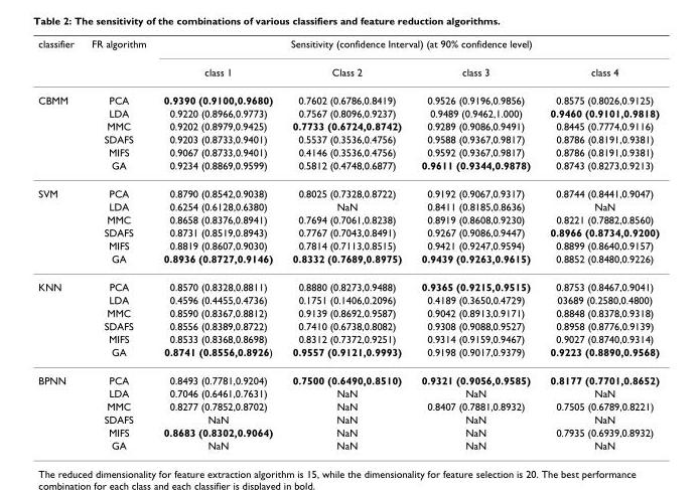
<table><thead><tr><td rowspan="2">classifier</td><td rowspan="2">FR algorithm</td><td colspan="4">Sensitivity (confidence Interval) (at 90% confidence level)</td></tr><tr><td>class 1</td><td>Class 2</td><td>class 3</td><td>class 4</td></tr></thead><tbody><tr><td rowspan="6">CBMM</td><td>PCA</td><td>0.9390 (0.9100,0.9680)</td><td>0.7602 (0.6786,0.8419)</td><td>0.9526 (0.9196,0.9856)</td><td>0.8575 (0.8026,0.9125)</td></tr><tr><td>LDA</td><td>0.9220 (0.8966,0.9773)</td><td>0.7567 (0.8096,0.9237)</td><td>0.9489 (0.9462,1.000)</td><td>0.9460 (0.9101,0.9818)</td></tr><tr><td>MMC</td><td>0.9202 (0.8979,0.9425)</td><td>0.7733 (0.6724,0.8742)</td><td>0.9289 (0.9086,0.9491)</td><td>0.8445 (0.7774,0.9116)</td></tr><tr><td>SDAFS</td><td>0.9203 (0.8733,0.9401)</td><td>0.5537 (0.3536,0.4756)</td><td>0.9588 (0.9367,0.9817)</td><td>0.8786 (0.8191,0.9381)</td></tr><tr><td>MIFS</td><td>0.9067 (0.8733,0.9401)</td><td>0.4146 (0.3536,0.4756)</td><td>0.9592 (0.9367,0.9817)</td><td>0.8786 (0.8191,0.9381)</td></tr><tr><td>GA</td><td>0.9234 (0.8869,0.9599)</td><td>0.5812 (0.4748,0.6877)</td><td>0.9611 (0.9344,0.9878)</td><td>0.8743 (0.8273,0.9213)</td></tr><tr><td rowspan="6">SVM</td><td>PCA</td><td>0.8790 (0.8542,0.9038)</td><td>0.8025 (0.7328,0.8722)</td><td>0.9192 (0.9067,0.9317)</td><td>0.8744 (0.8441,0.9047)</td></tr><tr><td>LDA</td><td>0.6254 (0.6128,0.6380)</td><td>NaN</td><td>0.8411 (0.8185,0.8636)</td><td>NaN</td></tr><tr><td>MMC</td><td>0.8658 (0.8376,0.8941)</td><td>0.7694 (0.7061,0.8238)</td><td>0.8919 (0.8608,0.9230)</td><td>0.8221 (0.7882,0.8560)</td></tr><tr><td>SDAFS</td><td>0.8731 (0.8519,0.8943)</td><td>0.7767 (0.7043,0.8491)</td><td>0.9267 (0.9086,0.9447)</td><td>0.8966 (0.8734,0.9200)</td></tr><tr><td>MIFS</td><td>0.8819 (0.8607,0.9030)</td><td>0.7814 (0.7113,0.8515)</td><td>0.9421 (0.9247,0.9594)</td><td>0.8899 (0.8640,0.9157)</td></tr><tr><td>GA</td><td>0.8936 (0.8727,0.9146)</td><td>0.8332 (0.7689,0.8975)</td><td>0.9439 (0.9263,0.9615)</td><td>0.8852 (0.8480,0.9226)</td></tr><tr><td rowspan="6">KNN</td><td>PCA</td><td>0.8570 (0.8328,0.8811)</td><td>0.8880 (0.8273,0.9488)</td><td>0.9365 (0.9215,0.9515)</td><td>0.8753 (0.8467,0.9041)</td></tr><tr><td>LDA</td><td>0.4596 (0.4455,0.4736)</td><td>0.1751 (0.1406,0.2096)</td><td>0.4189 (0.3650,0.4729)</td><td>03689 (0.2580,0.4800)</td></tr><tr><td>MMC</td><td>0.8590 (0.8367,0.8812)</td><td>0.9139 (0.8692,0.9587)</td><td>0.9042 (0.8913,0.9171)</td><td>0.8848 (0.8378,0.9318)</td></tr><tr><td>SDAFS</td><td>0.8556 (0.8389,0.8722)</td><td>0.7410 (0.6738,0.8082)</td><td>0.9308 (0.9088,0.9527)</td><td>0.8958 (0.8776,0.9139)</td></tr><tr><td>MIFS</td><td>0.8533 (0.8368,0.8698)</td><td>0.8312 (0.7372,0.9251)</td><td>0.9314 (0.9159,0.9467)</td><td>0.9027 (0.8740,0.9314)</td></tr><tr><td>GA</td><td>0.8741 (0.8556,0.8926)</td><td>0.9557 (0.9121,0.9993)</td><td>0.9198 (0.9017,0.9379)</td><td>0.9223 (0.8890,0.9568)</td></tr><tr><td rowspan="6">BPNN</td><td>PCA</td><td>0.8493 (0.7781,0.9204)</td><td>0.7500 (0.6490,0.8510)</td><td>0.9321 (0.9056,0.9585)</td><td>0.8177 (0.7701,0.8652)</td></tr><tr><td>LDA</td><td>0.7046 (0.6461,0.7631)</td><td>NaN</td><td>NaN</td><td>NaN</td></tr><tr><td>MMC</td><td>0.8277 (0.7852,0.8702)</td><td>NaN</td><td>0.8407 (0.7881,0.8932)</td><td>0.7505 (0.6789,0.8221)</td></tr><tr><td>SDAFS</td><td>NaN</td><td>NaN</td><td>NaN</td><td>NaN</td></tr><tr><td>MIFS</td><td>0.8683 (0.8302,0.9064)</td><td>NaN</td><td>NaN</td><td>0.7935 (0.6939,0.8932)</td></tr><tr><td>GA</td><td>NaN</td><td>NaN</td><td>NaN</td><td>NaN</td></tr></tbody></table>